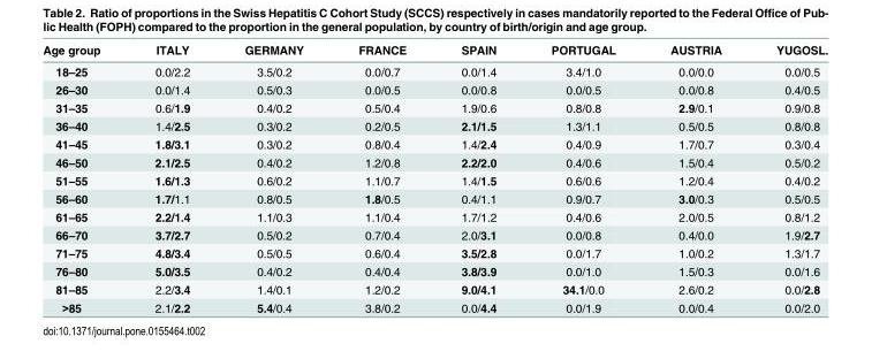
<table><thead><tr><td>Age group</td><td>ITALY</td><td>GERMANY</td><td>FRANCE</td><td>SPAIN</td><td>PORTUGAL</td><td>AUSTRIA</td><td>YUGOSL.</td></tr></thead><tbody><tr><td>18–25</td><td>0.0/2.2</td><td>3.5/0.2</td><td>0.0/0.7</td><td>0.0/1.4</td><td>3.4/1.0</td><td>0.0/0.0</td><td>0.0/0.5</td></tr><tr><td>26–30</td><td>0.0/1.4</td><td>0.5/0.3</td><td>0.0/0.5</td><td>0.0/0.8</td><td>0.0/0.5</td><td>0.0/0.8</td><td>0.4/0.5</td></tr><tr><td>31–35</td><td>0.6/1.9</td><td>0.4/0.2</td><td>0.5/0.4</td><td>1.9/0.6</td><td>0.8/0.8</td><td>2.9/0.1</td><td>0.9/0.8</td></tr><tr><td>36–40</td><td>1.4/2.5</td><td>0.3/0.2</td><td>0.2/0.5</td><td>2.1/1.5</td><td>1.3/1.1</td><td>0.5/0.5</td><td>0.8/0.8</td></tr><tr><td>41–45</td><td>1.8/3.1</td><td>0.3/0.2</td><td>0.8/0.4</td><td>1.4/2.4</td><td>0.4/0.9</td><td>1.7/0.7</td><td>0.3/0.4</td></tr><tr><td>46–50</td><td>2.1/2.5</td><td>0.4/0.2</td><td>1.2/0.8</td><td>2.2/2.0</td><td>0.4/0.6</td><td>1.5/0.4</td><td>0.5/0.2</td></tr><tr><td>51–55</td><td>1.6/1.3</td><td>0.6/0.2</td><td>1.1/0.7</td><td>1.4/1.5</td><td>0.6/0.6</td><td>1.2/0.4</td><td>0.4/0.2</td></tr><tr><td>56–60</td><td>1.7/1.1</td><td>0.8/0.5</td><td>1.8/0.5</td><td>0.4/1.1</td><td>0.9/0.7</td><td>3.0/0.3</td><td>0.5/0.5</td></tr><tr><td>61–65</td><td>2.2/1.4</td><td>1.1/0.3</td><td>1.1/0.4</td><td>1.7/1.2</td><td>0.4/0.6</td><td>2.0/0.5</td><td>0.8/1.2</td></tr><tr><td>66–70</td><td>3.7/2.7</td><td>0.5/0.2</td><td>0.7/0.4</td><td>2.0/3.1</td><td>0.0/0.8</td><td>0.4/0.0</td><td>1.9/2.7</td></tr><tr><td>71–75</td><td>4.8/3.4</td><td>0.5/0.5</td><td>0.6/0.4</td><td>3.5/2.8</td><td>0.0/1.7</td><td>1.0/0.2</td><td>1.3/1.7</td></tr><tr><td>76–80</td><td>5.0/3.5</td><td>0.4/0.2</td><td>0.4/0.4</td><td>3.8/3.9</td><td>0.0/1.0</td><td>1.5/0.3</td><td>0.0/1.6</td></tr><tr><td>81–85</td><td>2.2/3.4</td><td>1.4/0.1</td><td>1.2/0.2</td><td>9.0/4.1</td><td>34.1/0.0</td><td>2.6/0.2</td><td>0.0/2.8</td></tr><tr><td>&gt;85</td><td>2.1/2.2</td><td>5.4/0.4</td><td>3.8/0.2</td><td>0.0/4.4</td><td>0.0/1.9</td><td>0.0/0.4</td><td>0.0/2.0</td></tr></tbody></table>